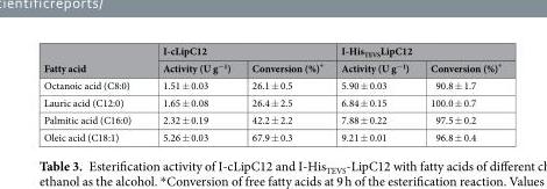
<table><thead><tr><td rowspan="2">Fatty acid</td><td colspan="2">I-cLipC12</td><td colspan="2">I-His<sub>TEVS</sub>LipC12</td></tr><tr><td>Activity (U g<sup>−1</sup>)</td><td>Conversion (%)*</td><td>Activity (U g<sup>−1</sup>)</td><td>Conversion (%)*</td></tr></thead><tbody><tr><td>Octanoic acid (C8:0)</td><td>1.51 ± 0.03</td><td>26.1 ± 0.5</td><td>5.90 ± 0.03</td><td>90.8 ± 1.7</td></tr><tr><td>Lauric acid (C12:0)</td><td>1.65 ± 0.08</td><td>26.4 ± 2.5</td><td>6.84 ± 0.15</td><td>100.0 ± 0.7</td></tr><tr><td>Palmitic acid (C16:0)</td><td>2.32 ± 0.19</td><td>42.2 ± 2.2</td><td>7.88 ± 0.22</td><td>97.5 ± 0.2</td></tr><tr><td>Oleic acid (C18:1)</td><td>5.26 ± 0.03</td><td>67.9 ± 0.3</td><td>9.21 ± 0.01</td><td>96.8 ± 0.4</td></tr></tbody></table>